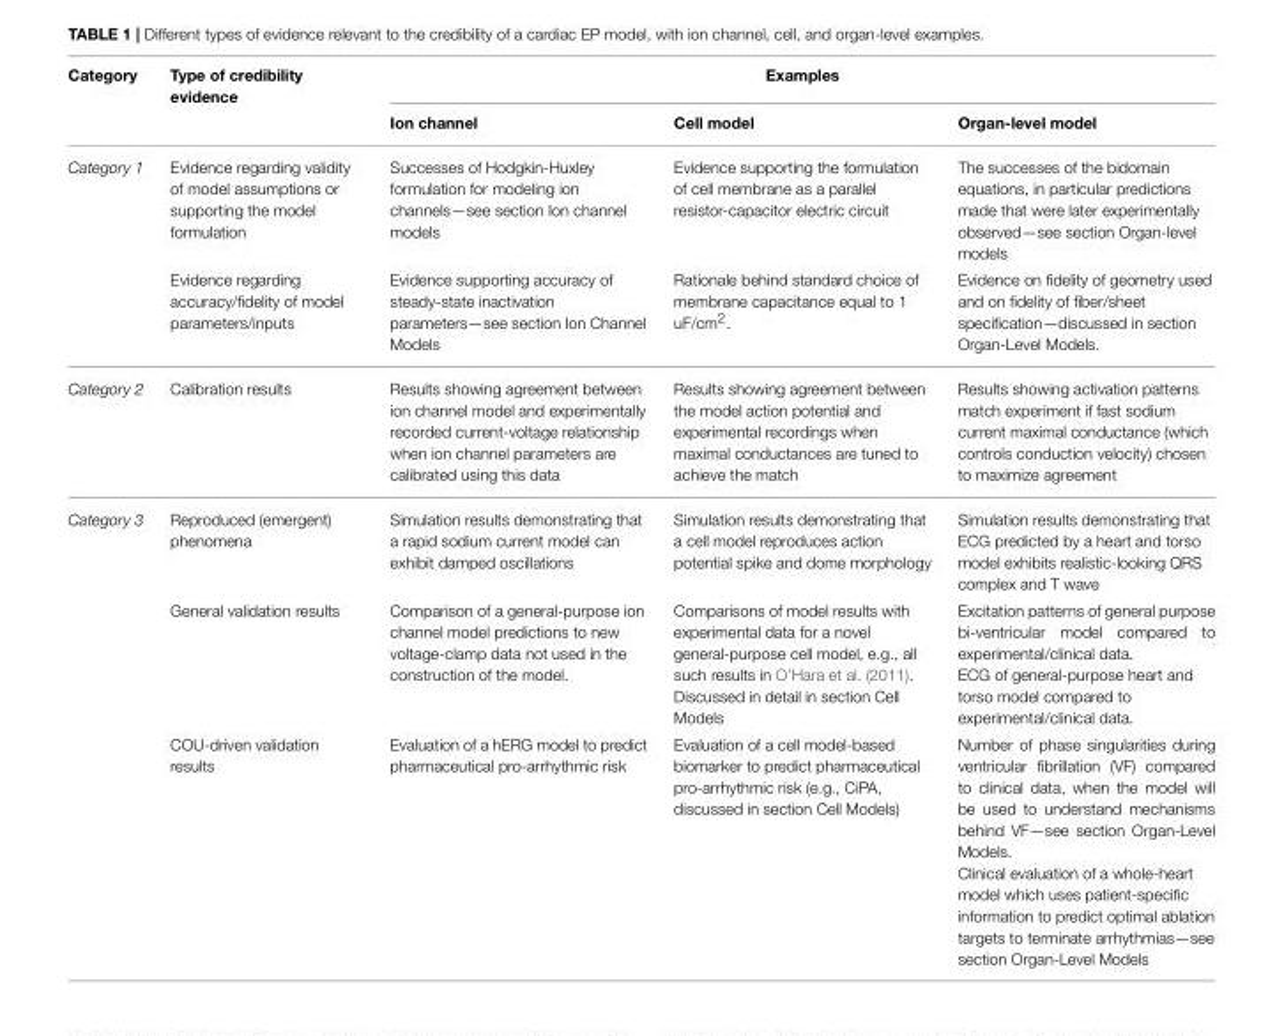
<table><thead><tr><td rowspan="2">Category</td><td rowspan="2">Type of credibility evidence</td><td colspan="3">Examples</td></tr><tr><td>Ion channel</td><td>Cell model</td><td>Organ-level model</td></tr></thead><tbody><tr><td rowspan="2">Category 1</td><td>Evidence regarding validity of model assumptions or supporting the model formulation</td><td>Successes of Hodgkin-Huxley formulation for modeling ion channels—see section Ion channel models</td><td>Evidence supporting the formulation of cell membrane as a parallel resistor-capacitor electric circuit</td><td>The successes of the bidomain equations, in particular predictions made that were later experimentally observed—see section Organ-level models</td></tr><tr><td>Evidence regarding accuracy/fidelity of model parameters/inputs</td><td>Evidence supporting accuracy of steady-state inactivation parameters—see section Ion Channel Models</td><td>Rationale behind standard choice of membrane capacitance equal to 1 uF/cm<sup>2</sup>.</td><td>Evidence on fidelity of geometry used and on fidelity of fiber/sheet specification—discussed in section Organ-Level Models.</td></tr><tr><td>Category 2</td><td>Calibration results</td><td>Results showing agreement between ion channel model and experimentally recorded current-voltage relationship when ion channel parameters are calibrated using this data</td><td>Results showing agreement between the model action potential and experimental recordings when maximal conductances are tuned to achieve the match</td><td>Results showing activation patterns match experiment if fast sodium current maximal conductance (which controls conduction velocity) chosen to maximize agreement</td></tr><tr><td rowspan="3">Category 3</td><td>Reproduced (emergent) phenomena</td><td>Simulation results demonstrating that a rapid sodium current model can exhibit damped oscillations</td><td>Simulation results demonstrating that a cell model reproduces action potential spike and dome morphology</td><td>Simulation results demonstrating that ECG predicted by a heart and torso model exhibits realistic-looking QRS complex and T wave</td></tr><tr><td>General validation results</td><td>Comparison of a general-purpose ion channel model predictions to new voltage-clamp data not used in the construction of the model.</td><td>Comparisons of model results with experimental data for a novel general-purpose cell model, e.g., all such results in O’Hara et al. (2011). Discussed in detail in section Cell Models</td><td>Excitation patterns of general purpose bi-ventricular model compared to experimental/clinical data. ECG of general-purpose heart and torso model compared to experimental/clinical data.</td></tr><tr><td>COU-driven validation results</td><td>Evaluation of a hERG model to predict pharmaceutical pro-arrhythmic risk</td><td>Evaluation of a cell model-based biomarker to predict pharmaceutical pro-arrhythmic risk (e.g., CiPA, discussed in section Cell Models)</td><td>Number of phase singularities during ventricular fibrillation (VF) compared to clinical data, when the model will be used to understand mechanisms behind VF—see section Organ-Level Models. Clinical evaluation of a whole-heart model which uses patient-specific information to predict optimal ablation targets to terminate arrhythmias—see section Organ-Level Models</td></tr></tbody></table>